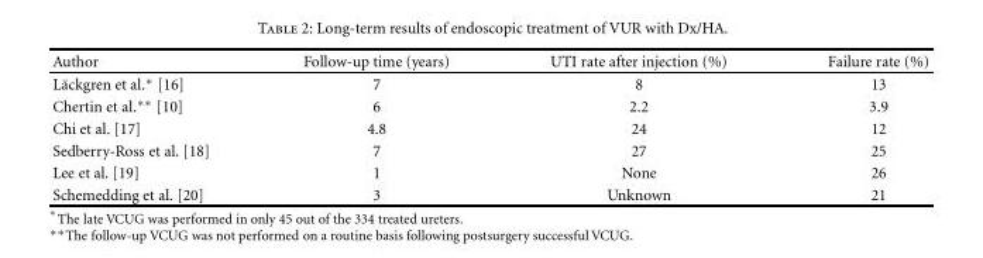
<table><thead><tr><td>Author</td><td>Follow-up time (years)</td><td>UTI rate after injection (%)</td><td>Failure rate (%)</td></tr></thead><tbody><tr><td>L¨ackgren et al.∗ [16]</td><td>7</td><td>8</td><td>13</td></tr><tr><td>Chertin et al.∗∗ [10]</td><td>6</td><td>2.2</td><td>3.9</td></tr><tr><td>Chi et al. [17]</td><td>4.8</td><td>24</td><td>12</td></tr><tr><td>Sedberry-Ross et al. [18]</td><td>7</td><td>27</td><td>25</td></tr><tr><td>Lee et al. [19]</td><td>1</td><td>None</td><td>26</td></tr><tr><td>Schemedding et al. [20]</td><td>3</td><td>Unknown</td><td>21</td></tr></tbody></table>